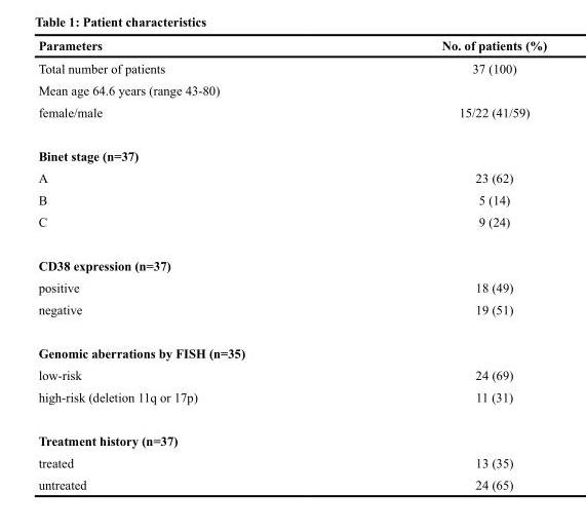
<table><thead><tr><td>Parameters</td><td>No. of patients (%)</td></tr></thead><tbody><tr><td>Total number of patients</td><td>37 (100)</td></tr><tr><td colspan="2">Mean age 64.6 years (range 43-80)</td></tr><tr><td>female/male</td><td>15/22 (41/59)</td></tr><tr><td colspan="2">Binet stage (n=37)</td></tr><tr><td>A</td><td>23 (62)</td></tr><tr><td>B</td><td>5 (14)</td></tr><tr><td>C</td><td>9 (24)</td></tr><tr><td colspan="2">CD38 expression (n=37)</td></tr><tr><td>positive</td><td>18 (49)</td></tr><tr><td>negative</td><td>19 (51)</td></tr><tr><td colspan="2">Genomic aberrations by FISH (n=35)</td></tr><tr><td>low-risk</td><td>24 (69)</td></tr><tr><td>high-risk (deletion 11q or 17p)</td><td>11 (31)</td></tr><tr><td colspan="2">Treatment history (n=37)</td></tr><tr><td>treated</td><td>13 (35)</td></tr><tr><td>untreated</td><td>24 (65)</td></tr></tbody></table>